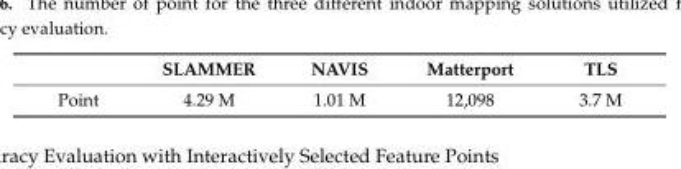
<table><thead><tr><td></td><td>SLAMMER</td><td>NAVIS</td><td>Matterport</td><td>TLS</td></tr></thead><tbody><tr><td>Point</td><td>4.29 M</td><td>1.01 M</td><td>12,098</td><td>3.7 M</td></tr></tbody></table>